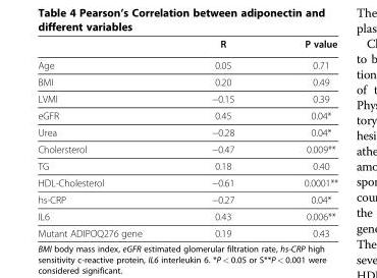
<table><thead><tr><td></td><td>R</td><td>P value</td></tr></thead><tbody><tr><td>Age</td><td>0.05</td><td>0.71</td></tr><tr><td>BMI</td><td>0.20</td><td>0.49</td></tr><tr><td>LVMI</td><td>−0.15</td><td>0.39</td></tr><tr><td>eGFR</td><td>0.45</td><td>0.04*</td></tr><tr><td>Urea</td><td>−0.28</td><td>0.04*</td></tr><tr><td>Cholersterol</td><td>−0.47</td><td>0.009**</td></tr><tr><td>TG</td><td>0.18</td><td>0.40</td></tr><tr><td>HDL-Cholesterol</td><td>−0.61</td><td>0.0001**</td></tr><tr><td>hs-CRP</td><td>−0.27</td><td>0.04*</td></tr><tr><td>IL6</td><td>0.43</td><td>0.006**</td></tr><tr><td>Mutant ADIPOQ276 gene</td><td>0.19</td><td>0.43</td></tr></tbody></table>